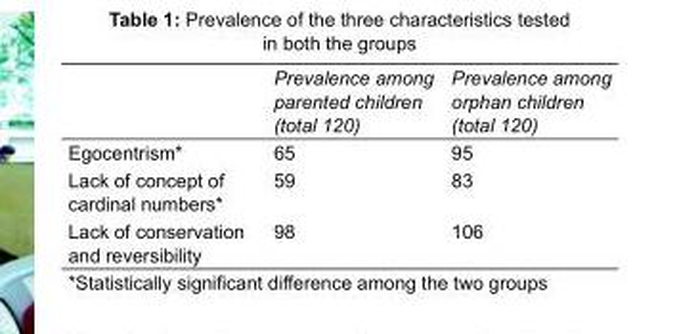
<table><thead><tr><td></td><td>Prevalence among parented children (total 120)</td><td>Prevalence among orphan children (total 120)</td></tr></thead><tbody><tr><td>Egocentrism*</td><td>65</td><td>95</td></tr><tr><td>Lack of concept of</td><td>59</td><td>83</td></tr><tr><td colspan="3">cardinal numbers*</td></tr><tr><td>Lack of conservation</td><td>98</td><td>106</td></tr><tr><td>and reversibility</td><td></td><td></td></tr></tbody></table>